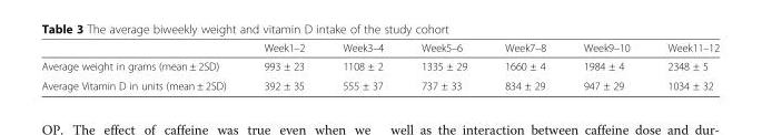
<table><thead><tr><td></td><td>Week1–2</td><td>Week3–4</td><td>Week5–6</td><td>Week7–8</td><td>Week9–10</td><td>Week11–12</td></tr></thead><tbody><tr><td>Average weight in grams (mean ± 2SD)</td><td>993 ± 23</td><td>1108 ± 2</td><td>1335 ± 29</td><td>1660 ± 4</td><td>1984 ± 4</td><td>2348 ± 5</td></tr><tr><td>Average Vitamin D in units (mean ± 2SD)</td><td>392 ± 35</td><td>555 ± 37</td><td>737 ± 33</td><td>834 ± 29</td><td>947 ± 29</td><td>1034 ± 32</td></tr></tbody></table>